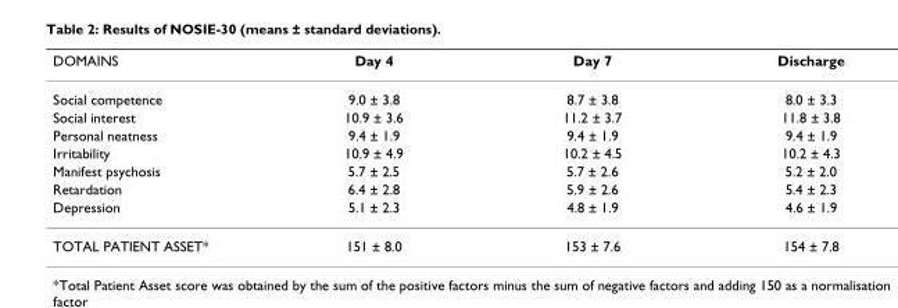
<table><thead><tr><td>DOMAINS</td><td>Day 4</td><td>Day 7</td><td>Discharge</td></tr></thead><tbody><tr><td>Social competence</td><td>9.0 ± 3.8</td><td>8.7 ± 3.8</td><td>8.0 ± 3.3</td></tr><tr><td>Social interest</td><td>10.9 ± 3.6</td><td>11.2 ± 3.7</td><td>11.8 ± 3.8</td></tr><tr><td>Personal neatness</td><td>9.4 ± 1.9</td><td>9.4 ± 1.9</td><td>9.4 ± 1.9</td></tr><tr><td>Irritability</td><td>10.9 ± 4.9</td><td>10.2 ± 4.5</td><td>10.2 ± 4.3</td></tr><tr><td>Manifest psychosis</td><td>5.7 ± 2.5</td><td>5.7 ± 2.6</td><td>5.2 ± 2.0</td></tr><tr><td>Retardation</td><td>6.4 ± 2.8</td><td>5.9 ± 2.6</td><td>5.4 ± 2.3</td></tr><tr><td>Depression</td><td>5.1 ± 2.3</td><td>4.8 ± 1.9</td><td>4.6 ± 1.9</td></tr><tr><td>TOTAL PATIENT ASSET*</td><td>151 ± 8.0</td><td>153 ± 7.6</td><td>154 ± 7.8</td></tr></tbody></table>